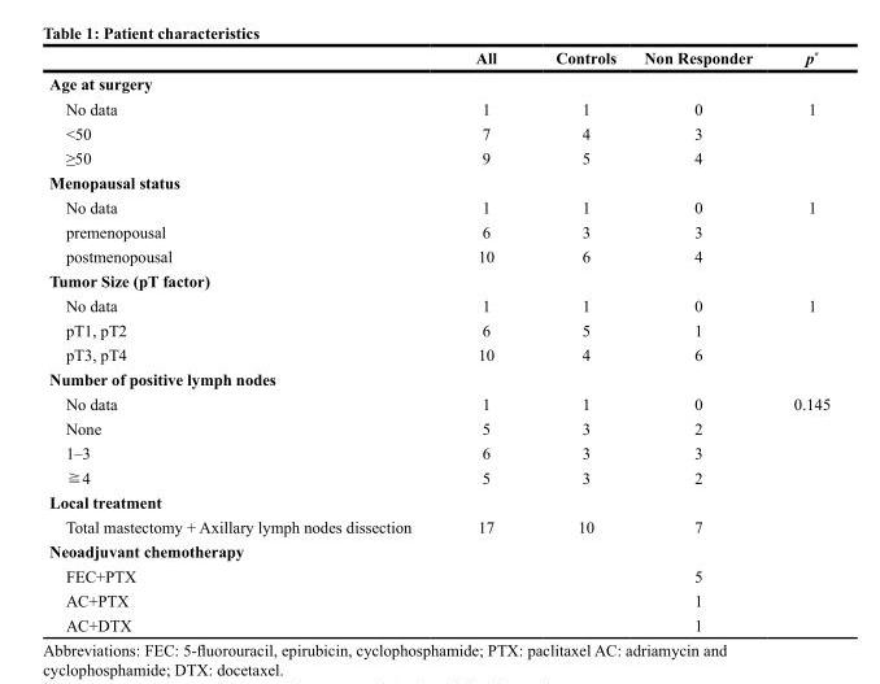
<table><thead><tr><td></td><td>All</td><td>Controls</td><td>Non Responder</td><td>p*</td></tr></thead><tbody><tr><td colspan="5">Age at surgery</td></tr><tr><td>No data</td><td>1</td><td>1</td><td>0</td><td>1</td></tr><tr><td>&lt;50</td><td>7</td><td>4</td><td>3</td><td></td></tr><tr><td>≥50</td><td>9</td><td>5</td><td>4</td><td></td></tr><tr><td colspan="5">Menopausal status</td></tr><tr><td>No data</td><td>1</td><td>1</td><td>0</td><td>1</td></tr><tr><td>premenopousal</td><td>6</td><td>3</td><td>3</td><td></td></tr><tr><td>postmenopousal</td><td>10</td><td>6</td><td>4</td><td></td></tr><tr><td colspan="5">Tumor Size (pT factor)</td></tr><tr><td>No data</td><td>1</td><td>1</td><td>0</td><td>1</td></tr><tr><td>pT1, pT2</td><td>6</td><td>5</td><td>1</td><td></td></tr><tr><td>pT3, pT4</td><td>10</td><td>4</td><td>6</td><td></td></tr><tr><td colspan="5">Number of positive lymph nodes</td></tr><tr><td>No data</td><td>1</td><td>1</td><td>0</td><td>0.145</td></tr><tr><td>None</td><td>5</td><td>3</td><td>2</td><td></td></tr><tr><td>1–3</td><td>6</td><td>3</td><td>3</td><td></td></tr><tr><td>≧4</td><td>5</td><td>3</td><td>2</td><td></td></tr><tr><td colspan="5">Local treatment</td></tr><tr><td>Total mastectomy + Axillary lymph nodes dissection</td><td>17</td><td>10</td><td>7</td><td></td></tr><tr><td colspan="5">Neoadjuvant chemotherapy</td></tr><tr><td>FEC+PTX</td><td></td><td></td><td>5</td><td></td></tr><tr><td>AC+PTX</td><td></td><td></td><td>1</td><td></td></tr><tr><td>AC+DTX</td><td></td><td></td><td>1</td><td></td></tr></tbody></table>